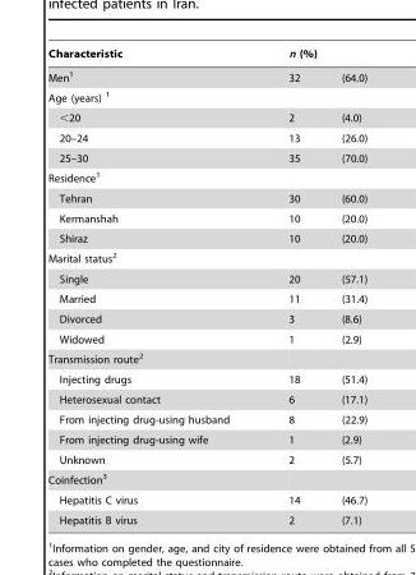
<table><thead><tr><td rowspan="2">Characteristic Men<sup>1</sup></td><td colspan="2">n (%)</td></tr><tr><td>32</td><td>(64.0)</td></tr></thead><tbody><tr><td colspan="3">Age (years) 1</td></tr><tr><td>&lt;20</td><td>2</td><td>(4.0)</td></tr><tr><td>20–24</td><td>13</td><td>(26.0)</td></tr><tr><td>25–30</td><td>35</td><td>(70.0)</td></tr><tr><td colspan="3">Residence<sup>1</sup></td></tr><tr><td>Tehran</td><td>30</td><td>(60.0)</td></tr><tr><td>Kermanshah</td><td>10</td><td>(20.0)</td></tr><tr><td>Shiraz</td><td>10</td><td>(20.0)</td></tr><tr><td colspan="3">Marital status<sup>2</sup></td></tr><tr><td>Single</td><td>20</td><td>(57.1)</td></tr><tr><td>Married</td><td>11</td><td>(31.4)</td></tr><tr><td>Divorced</td><td>3</td><td>(8.6)</td></tr><tr><td>Widowed</td><td>1</td><td>(2.9)</td></tr><tr><td colspan="3">Transmission route<sup>2</sup></td></tr><tr><td>Injecting drugs</td><td>18</td><td>(51.4)</td></tr><tr><td>Heterosexual contact</td><td>6</td><td>(17.1)</td></tr><tr><td>From injecting drug-using husband</td><td>8</td><td>(22.9)</td></tr><tr><td>From injecting drug-using wife</td><td>1</td><td>(2.9)</td></tr><tr><td>Unknown</td><td>2</td><td>(5.7)</td></tr><tr><td colspan="3">Coinfection<sup>3</sup></td></tr><tr><td>Hepatitis C virus</td><td>14</td><td>(46.7)</td></tr><tr><td>Hepatitis B virus</td><td>2</td><td>(7.1)</td></tr></tbody></table>